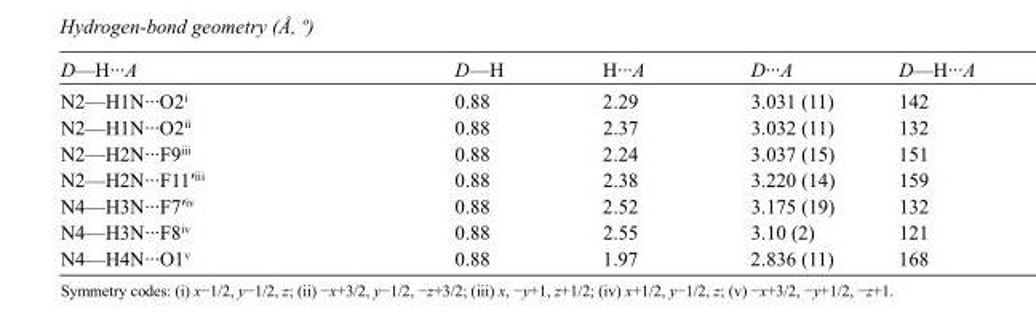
<table><tbody><tr><td>D—H···A</td><td>D—H</td><td>H···A</td><td>D···A</td><td>D—H···A</td></tr><tr><td>N2—H1N···O2<sup>i</sup></td><td>0.88</td><td>2.29</td><td>3.031 (11)</td><td>142</td></tr><tr><td>N2—H1N···O2<sup>ii</sup></td><td>0.88</td><td>2.37</td><td>3.032 (11)</td><td>132</td></tr><tr><td>N2—H2N···F9<sup>iii</sup></td><td>0.88</td><td>2.24</td><td>3.037 (15)</td><td>151</td></tr><tr><td>N2—H2N···F11′<sup>iii</sup></td><td>0.88</td><td>2.38</td><td>3.220 (14)</td><td>159</td></tr><tr><td>N4—H3N···F7′<sup>iv</sup></td><td>0.88</td><td>2.52</td><td>3.175 (19)</td><td>132</td></tr><tr><td>N4—H3N···F8<sup>iv</sup></td><td>0.88</td><td>2.55</td><td>3.10 (2)</td><td>121</td></tr><tr><td>N4—H4N···O1<sup>v</sup></td><td>0.88</td><td>1.97</td><td>2.836 (11)</td><td>168</td></tr></tbody></table>